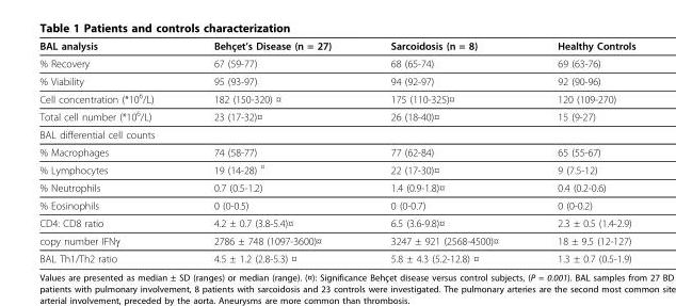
<table><thead><tr><td>BAL analysis</td><td>Behçet’s Disease (n = 27)</td><td>Sarcoidosis (n = 8)</td><td>Healthy Controls</td></tr></thead><tbody><tr><td>% Recovery</td><td>67 (59-77)</td><td>68 (65-74)</td><td>69 (63-76)</td></tr><tr><td>% Viability</td><td>95 (93-97)</td><td>94 (92-97)</td><td>92 (90-96)</td></tr><tr><td>Cell concentration (*10<sup>6</sup>/L)</td><td>182 (150-320) ¤</td><td>175 (110-325)¤</td><td>120 (109-270)</td></tr><tr><td>Total cell number (*10<sup>6</sup>/L)</td><td>23 (17-32)¤</td><td>26 (18-40)¤</td><td>15 (9-27)</td></tr><tr><td colspan="4">BAL differential cell counts</td></tr><tr><td>% Macrophages</td><td>74 (58-77)</td><td>77 (62-84)</td><td>65 (55-67)</td></tr><tr><td>% Lymphocytes</td><td>19 (14-28) <sup>¤</sup></td><td>22 (17-30)¤</td><td>9 (7.5-12)</td></tr><tr><td>% Neutrophils</td><td>0.7 (0.5-1.2)</td><td>1.4 (0.9-1.8)¤</td><td>0.4 (0.2-0.6)</td></tr><tr><td>% Eosinophils</td><td>0 (0-0.5)</td><td>0 (0-0.7)</td><td>0 (0-0.2)</td></tr><tr><td>CD4: CD8 ratio</td><td>4.2 ± 0.7 (3.8-5.4)¤</td><td>6.5 (3.6-9.8)¤</td><td>2.3 ± 0.5 (1.4-2.9)</td></tr><tr><td>copy number IFNγ</td><td>2786 ± 748 (1097-3600)¤</td><td>3247 ± 921 (2568-4500)¤</td><td>18 ± 9.5 (12-127)</td></tr><tr><td>BAL Th1/Th2 ratio</td><td>4.5 ± 1.2 (2.8-5.3) ¤</td><td>5.8 ± 4.3 (5.2-12.8) ¤</td><td>1.3 ± 0.7 (0.5-1.9)</td></tr></tbody></table>